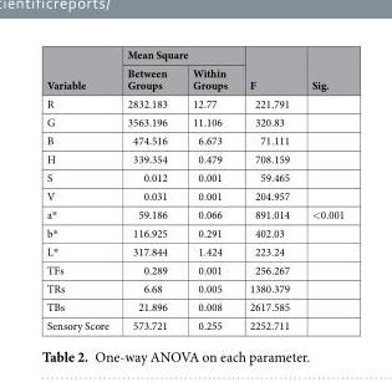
<table><thead><tr><td rowspan="2">Variable</td><td colspan="2">Mean Square</td><td rowspan="2">F</td><td rowspan="2">Sig.</td></tr><tr><td>Between Groups</td><td>Within Groups</td></tr></thead><tbody><tr><td>R</td><td>2832.183</td><td>12.77</td><td>221.791</td><td></td></tr><tr><td>G</td><td>3563.196</td><td>11.106</td><td>320.83</td><td></td></tr><tr><td>B</td><td>474.516</td><td>6.673</td><td>71.111</td><td></td></tr><tr><td>H</td><td>339.354</td><td>0.479</td><td>708.159</td><td></td></tr><tr><td>S</td><td>0.012</td><td>0.001</td><td>59.465</td><td></td></tr><tr><td>V</td><td>0.031</td><td>0.001</td><td>204.957</td><td></td></tr><tr><td>a*</td><td>59.186</td><td>0.066</td><td>891.014</td><td>&lt;0.001</td></tr><tr><td>b*</td><td>116.925</td><td>0.291</td><td>402.03</td><td></td></tr><tr><td>L*</td><td>317.844</td><td>1.424</td><td>223.24</td><td></td></tr><tr><td>TFs</td><td>0.289</td><td>0.001</td><td>256.267</td><td></td></tr><tr><td>TRs</td><td>6.68</td><td>0.005</td><td>1380.379</td><td></td></tr><tr><td>TBs</td><td>21.896</td><td>0.008</td><td>2617.585</td><td></td></tr><tr><td>Sensory Score</td><td>573.721</td><td>0.255</td><td>2252.711</td><td></td></tr></tbody></table>